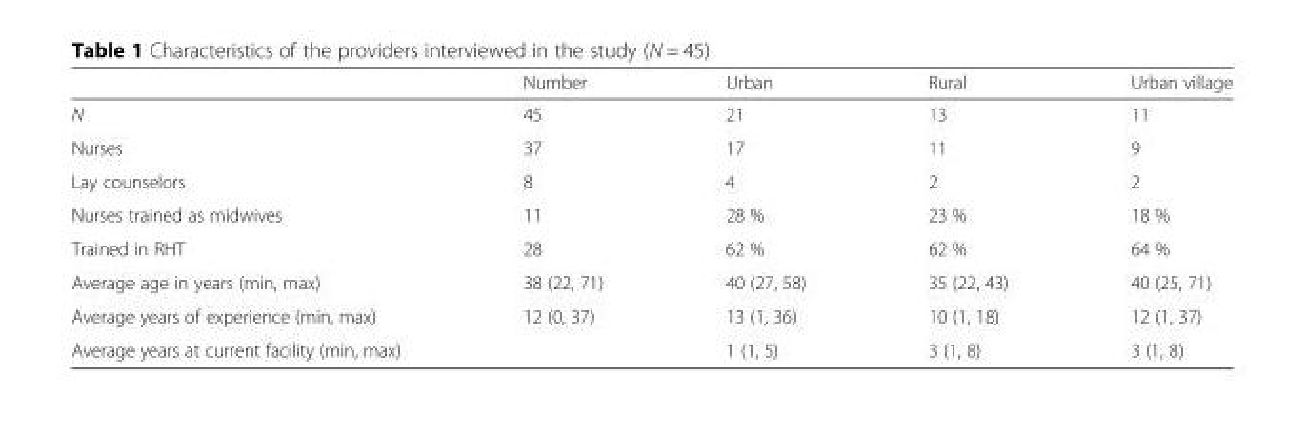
<table><thead><tr><td></td><td>Number</td><td>Urban</td><td>Rural</td><td>Urban village</td></tr></thead><tbody><tr><td>N</td><td>45</td><td>21</td><td>13</td><td>11</td></tr><tr><td>Nurses</td><td>37</td><td>17</td><td>11</td><td>9</td></tr><tr><td>Lay counselors</td><td>8</td><td>4</td><td>2</td><td>2</td></tr><tr><td>Nurses trained as midwives</td><td>11</td><td>28 %</td><td>23 %</td><td>18 %</td></tr><tr><td>Trained in RHT</td><td>28</td><td>62 %</td><td>62 %</td><td>64 %</td></tr><tr><td>Average age in years (min, max)</td><td>38 (22, 71)</td><td>40 (27, 58)</td><td>35 (22, 43)</td><td>40 (25, 71)</td></tr><tr><td>Average years of experience (min, max)</td><td>12 (0, 37)</td><td>13 (1, 36)</td><td>10 (1, 18)</td><td>12 (1, 37)</td></tr><tr><td>Average years at current facility (min, max)</td><td></td><td>1 (1, 5)</td><td>3 (1, 8)</td><td>3 (1, 8)</td></tr></tbody></table>